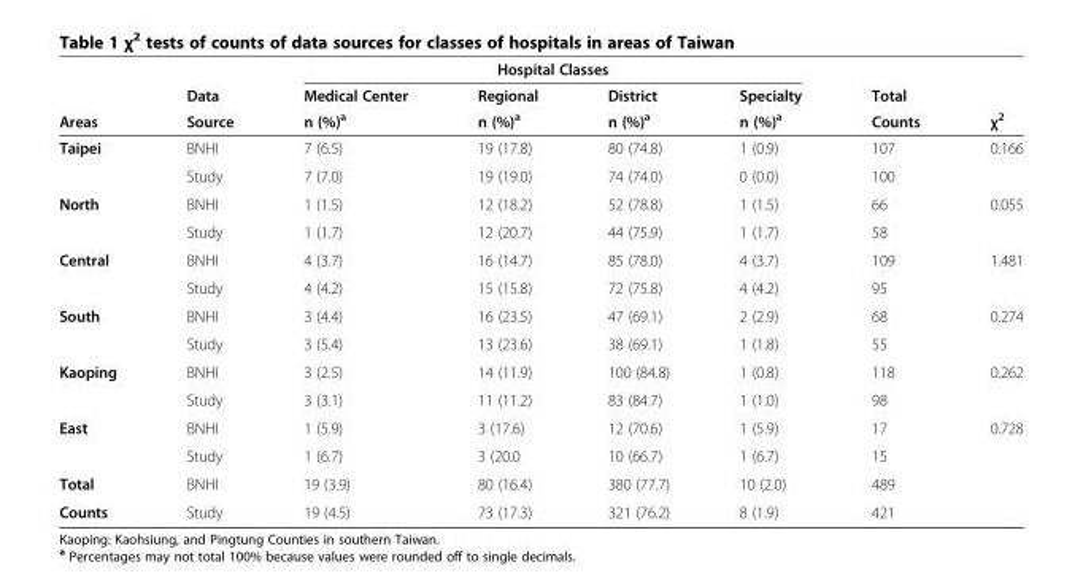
<table><thead><tr><td rowspan="3">Areas</td><td rowspan="3">Data Source</td><td colspan="4">Hospital Classes</td><td rowspan="3">Total Counts</td><td rowspan="3">χ<sup>2</sup></td></tr><tr><td rowspan="2">Medical Center n (%)<sup>a</sup></td><td rowspan="2">Regional n (%)<sup>a</sup></td><td rowspan="2">District n (%)<sup>a</sup></td><td rowspan="2">Specialty n (%)<sup>a</sup></td></tr><tr></tr></thead><tbody><tr><td rowspan="2">Taipei</td><td>BNHI</td><td>7 (6.5)</td><td>19 (17.8)</td><td>80 (74.8)</td><td>1 (0.9)</td><td>107</td><td>0.166</td></tr><tr><td>Study</td><td>7 (7.0)</td><td>19 (19.0)</td><td>74 (74.0)</td><td>0 (0.0)</td><td>100</td><td></td></tr><tr><td rowspan="2">North</td><td>BNHI</td><td>1 (1.5)</td><td>12 (18.2)</td><td>52 (78.8)</td><td>1 (1.5)</td><td>66</td><td>0.055</td></tr><tr><td>Study</td><td>1 (1.7)</td><td>12 (20.7)</td><td>44 (75.9)</td><td>1 (1.7)</td><td>58</td><td></td></tr><tr><td rowspan="2">Central</td><td>BNHI</td><td>4 (3.7)</td><td>16 (14.7)</td><td>85 (78.0)</td><td>4 (3.7)</td><td>109</td><td>1.481</td></tr><tr><td>Study</td><td>4 (4.2)</td><td>15 (15.8)</td><td>72 (75.8)</td><td>4 (4.2)</td><td>95</td><td></td></tr><tr><td rowspan="2">South</td><td>BNHI</td><td>3 (4.4)</td><td>16 (23.5)</td><td>47 (69.1)</td><td>2 (2.9)</td><td>68</td><td>0.274</td></tr><tr><td>Study</td><td>3 (5.4)</td><td>13 (23.6)</td><td>38 (69.1)</td><td>1 (1.8)</td><td>55</td><td></td></tr><tr><td rowspan="2">Kaoping</td><td>BNHI</td><td>3 (2.5)</td><td>14 (11.9)</td><td>100 (84.8)</td><td>1 (0.8)</td><td>118</td><td>0.262</td></tr><tr><td>Study</td><td>3 (3.1)</td><td>11 (11.2)</td><td>83 (84.7)</td><td>1 (1.0)</td><td>98</td><td></td></tr><tr><td rowspan="2">East</td><td>BNHI</td><td>1 (5.9)</td><td>3 (17.6)</td><td>12 (70.6)</td><td>1 (5.9)</td><td>17</td><td>0.728</td></tr><tr><td>Study</td><td>1 (6.7)</td><td>3 (20.0</td><td>10 (66.7)</td><td>1 (6.7)</td><td>15</td><td></td></tr><tr><td>Total</td><td>BNHI</td><td>19 (3.9)</td><td>80 (16.4)</td><td>380 (77.7)</td><td>10 (2.0)</td><td>489</td><td></td></tr><tr><td>Counts</td><td>Study</td><td>19 (4.5)</td><td>73 (17.3)</td><td>321 (76.2)</td><td>8 (1.9)</td><td>421</td><td></td></tr></tbody></table>